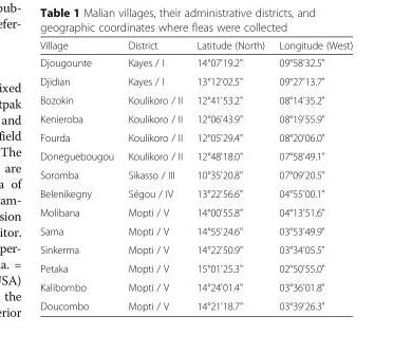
<table><thead><tr><td>Village</td><td>District</td><td>Latitude (North)</td><td>Longitude (West)</td></tr></thead><tbody><tr><td>Djougounte</td><td>Kayes / I</td><td>14°07&#x27;19.2&quot;</td><td>09°58&#x27;32.5&quot;</td></tr><tr><td>Djidian</td><td>Kayes / I</td><td>13°12&#x27;02.5&quot;</td><td>09°27&#x27;13.7&quot;</td></tr><tr><td>Bozokin</td><td>Koulikoro / II</td><td>12°41&#x27;53.2&quot;</td><td>08°14&#x27;35.2&quot;</td></tr><tr><td>Kenieroba</td><td>Koulikoro / II</td><td>12°06&#x27;43.9&quot;</td><td>08°19&#x27;55.9&quot;</td></tr><tr><td>Fourda</td><td>Koulikoro / II</td><td>12°05&#x27;29.4&quot;</td><td>08°20&#x27;06.0&quot;</td></tr><tr><td>Doneguebougou</td><td>Koulikoro / II</td><td>12°48&#x27;18.0&quot;</td><td>07°58&#x27;49.1&quot;</td></tr><tr><td>Soromba</td><td>Sikasso / III</td><td>10°35&#x27;20.8&quot;</td><td>07°09&#x27;20.5&quot;</td></tr><tr><td>Belenikegny</td><td>Ségou / IV</td><td>13°22&#x27;56.6&quot;</td><td>04°55&#x27;00.1&quot;</td></tr><tr><td>Molibana</td><td>Mopti / V</td><td>14°00&#x27;55.8&quot;</td><td>04°13&#x27;51.6&quot;</td></tr><tr><td>Sama</td><td>Mopti / V</td><td>14°55&#x27;24.6&quot;</td><td>03°53&#x27;49.9&quot;</td></tr><tr><td>Sinkerma</td><td>Mopti / V</td><td>14°22&#x27;50.9&quot;</td><td>03°34&#x27;05.5&quot;</td></tr><tr><td>Petaka</td><td>Mopti / V</td><td>15°01&#x27;25.3&quot;</td><td>02°50&#x27;55.0&quot;</td></tr><tr><td>Kalibombo</td><td>Mopti / V</td><td>14°24&#x27;01.4&quot;</td><td>03°36&#x27;01.8&quot;</td></tr><tr><td>Doucombo</td><td>Mopti / V</td><td>14°21&#x27;18.7&quot;</td><td>03°39&#x27;26.3&quot;</td></tr></tbody></table>